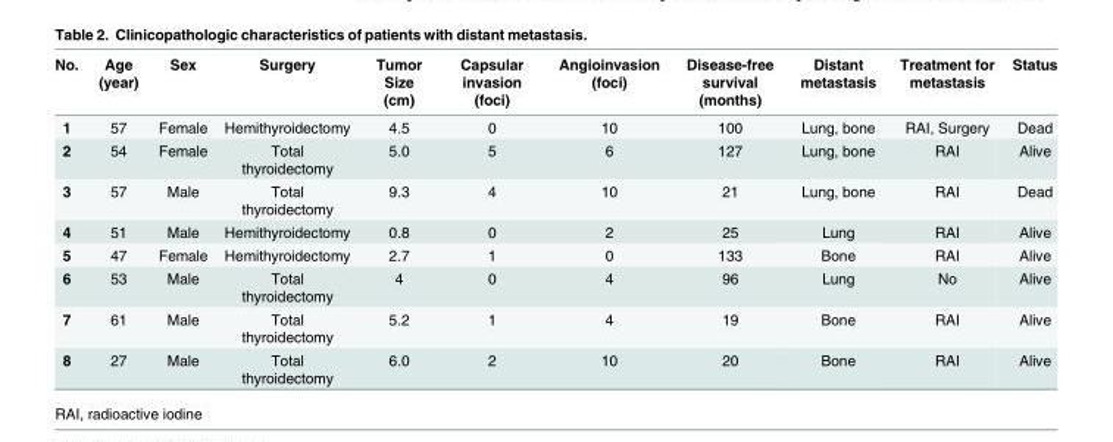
<table><thead><tr><td>No.</td><td>Age (year)</td><td>Sex</td><td>Surgery</td><td>Tumor Size (cm)</td><td>Capsular invasion (foci)</td><td>Angioinvasion (foci)</td><td>Disease-free survival (months)</td><td>Distant metastasis</td><td>Treatment for metastasis</td><td>Status</td></tr></thead><tbody><tr><td>1</td><td>57</td><td>Female</td><td>Hemithyroidectomy</td><td>4.5</td><td>0</td><td>10</td><td>100</td><td>Lung, bone</td><td>RAI, Surgery</td><td>Dead</td></tr><tr><td>2</td><td>54</td><td>Female</td><td>Total thyroidectomy</td><td>5.0</td><td>5</td><td>6</td><td>127</td><td>Lung, bone</td><td>RAI</td><td>Alive</td></tr><tr><td>3</td><td>57</td><td>Male</td><td>Total thyroidectomy</td><td>9.3</td><td>4</td><td>10</td><td>21</td><td>Lung, bone</td><td>RAI</td><td>Dead</td></tr><tr><td>4</td><td>51</td><td>Male</td><td>Hemithyroidectomy</td><td>0.8</td><td>0</td><td>2</td><td>25</td><td>Lung</td><td>RAI</td><td>Alive</td></tr><tr><td>5</td><td>47</td><td>Female</td><td>Hemithyroidectomy</td><td>2.7</td><td>1</td><td>0</td><td>133</td><td>Bone</td><td>RAI</td><td>Alive</td></tr><tr><td>6</td><td>53</td><td>Male</td><td>Total thyroidectomy</td><td>4</td><td>0</td><td>4</td><td>96</td><td>Lung</td><td>No</td><td>Alive</td></tr><tr><td>7</td><td>61</td><td>Male</td><td>Total thyroidectomy</td><td>5.2</td><td>1</td><td>4</td><td>19</td><td>Bone</td><td>RAI</td><td>Alive</td></tr><tr><td>8</td><td>27</td><td>Male</td><td>Total thyroidectomy</td><td>6.0</td><td>2</td><td>10</td><td>20</td><td>Bone</td><td>RAI</td><td>Alive</td></tr></tbody></table>